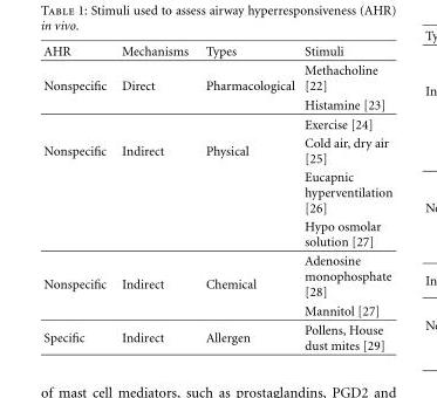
<table><thead><tr><td>AHR</td><td>Mechanisms</td><td>Types</td><td>Stimuli</td></tr></thead><tbody><tr><td rowspan="2">Nonspecific</td><td rowspan="2">Direct</td><td rowspan="2">Pharmacological</td><td>Methacholine [22]</td></tr><tr><td>Histamine [23]</td></tr><tr><td rowspan="4">Nonspecific</td><td rowspan="4">Indirect</td><td rowspan="4">Physical</td><td>Exercise [24]</td></tr><tr><td>Cold air, dry air [25]</td></tr><tr><td>Eucapnic hyperventilation [26]</td></tr><tr><td>Hypo osmolar solution [27]</td></tr><tr><td rowspan="2">Nonspecific</td><td rowspan="2">Indirect</td><td rowspan="2">Chemical</td><td>Adenosine monophosphate [28]</td></tr><tr><td>Mannitol [27]</td></tr><tr><td>Specific</td><td>Indirect</td><td>Allergen</td><td>Pollens, House dust mites [29]</td></tr></tbody></table>